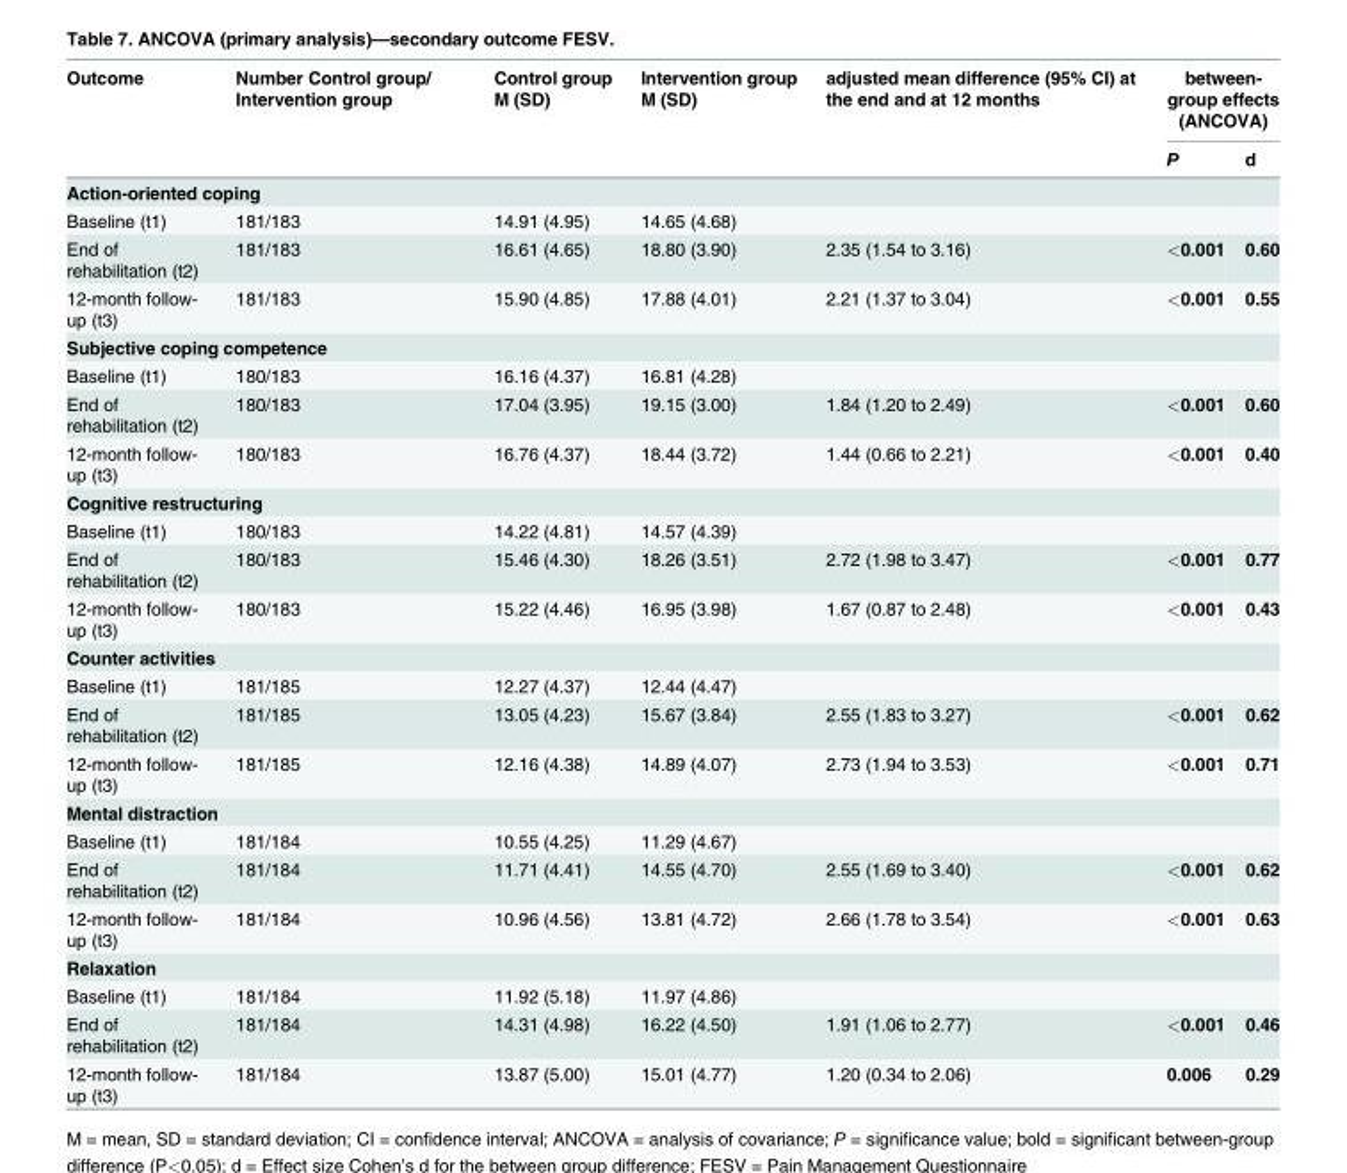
<table><thead><tr><td rowspan="2">Outcome</td><td rowspan="2">Number Control group/ Intervention group</td><td rowspan="2">Control group M (SD)</td><td rowspan="2">Intervention group M (SD)</td><td rowspan="2">adjusted mean difference (95% CI) at the end and at 12 months</td><td colspan="2">between- group effects (ANCOVA)</td></tr><tr><td>P</td><td>d</td></tr></thead><tbody><tr><td colspan="7">Action-oriented coping</td></tr><tr><td>Baseline (t1)</td><td>181/183</td><td>14.91 (4.95)</td><td>14.65 (4.68)</td><td></td><td></td><td></td></tr><tr><td>End of rehabilitation (t2)</td><td>181/183</td><td>16.61 (4.65)</td><td>18.80 (3.90)</td><td>2.35 (1.54 to 3.16)</td><td>&lt;0.001</td><td>0.60</td></tr><tr><td>12-month follow- up (t3)</td><td>181/183</td><td>15.90 (4.85)</td><td>17.88 (4.01)</td><td>2.21 (1.37 to 3.04)</td><td>&lt;0.001</td><td>0.55</td></tr><tr><td colspan="7">Subjective coping competence</td></tr><tr><td>Baseline (t1)</td><td>180/183</td><td>16.16 (4.37)</td><td>16.81 (4.28)</td><td></td><td></td><td></td></tr><tr><td>End of rehabilitation (t2)</td><td>180/183</td><td>17.04 (3.95)</td><td>19.15 (3.00)</td><td>1.84 (1.20 to 2.49)</td><td>&lt;0.001</td><td>0.60</td></tr><tr><td>12-month follow- up (t3)</td><td>180/183</td><td>16.76 (4.37)</td><td>18.44 (3.72)</td><td>1.44 (0.66 to 2.21)</td><td>&lt;0.001</td><td>0.40</td></tr><tr><td colspan="7">Cognitive restructuring</td></tr><tr><td>Baseline (t1)</td><td>180/183</td><td>14.22 (4.81)</td><td>14.57 (4.39)</td><td></td><td></td><td></td></tr><tr><td>End of rehabilitation (t2)</td><td>180/183</td><td>15.46 (4.30)</td><td>18.26 (3.51)</td><td>2.72 (1.98 to 3.47)</td><td>&lt;0.001</td><td>0.77</td></tr><tr><td>12-month follow- up (t3)</td><td>180/183</td><td>15.22 (4.46)</td><td>16.95 (3.98)</td><td>1.67 (0.87 to 2.48)</td><td>&lt;0.001</td><td>0.43</td></tr><tr><td colspan="7">Counter activities</td></tr><tr><td>Baseline (t1)</td><td>181/185</td><td>12.27 (4.37)</td><td>12.44 (4.47)</td><td></td><td></td><td></td></tr><tr><td>End of rehabilitation (t2)</td><td>181/185</td><td>13.05 (4.23)</td><td>15.67 (3.84)</td><td>2.55 (1.83 to 3.27)</td><td>&lt;0.001</td><td>0.62</td></tr><tr><td>12-month follow- up (t3)</td><td>181/185</td><td>12.16 (4.38)</td><td>14.89 (4.07)</td><td>2.73 (1.94 to 3.53)</td><td>&lt;0.001</td><td>0.71</td></tr><tr><td colspan="7">Mental distraction</td></tr><tr><td>Baseline (t1)</td><td>181/184</td><td>10.55 (4.25)</td><td>11.29 (4.67)</td><td></td><td></td><td></td></tr><tr><td>End of rehabilitation (t2)</td><td>181/184</td><td>11.71 (4.41)</td><td>14.55 (4.70)</td><td>2.55 (1.69 to 3.40)</td><td>&lt;0.001</td><td>0.62</td></tr><tr><td>12-month follow- up (t3)</td><td>181/184</td><td>10.96 (4.56)</td><td>13.81 (4.72)</td><td>2.66 (1.78 to 3.54)</td><td>&lt;0.001</td><td>0.63</td></tr><tr><td colspan="7">Relaxation</td></tr><tr><td>Baseline (t1)</td><td>181/184</td><td>11.92 (5.18)</td><td>11.97 (4.86)</td><td></td><td></td><td></td></tr><tr><td>End of rehabilitation (t2)</td><td>181/184</td><td>14.31 (4.98)</td><td>16.22 (4.50)</td><td>1.91 (1.06 to 2.77)</td><td>&lt;0.001</td><td>0.46</td></tr><tr><td>12-month follow- up (t3)</td><td>181/184</td><td>13.87 (5.00)</td><td>15.01 (4.77)</td><td>1.20 (0.34 to 2.06)</td><td>0.006</td><td>0.29</td></tr></tbody></table>